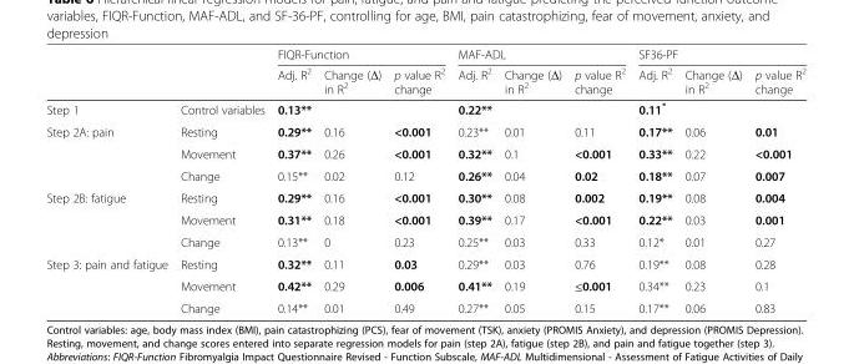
<table><thead><tr><td rowspan="2"></td><td rowspan="2"></td><td colspan="3">FIQR-Function</td><td colspan="3">MAF-ADL</td><td colspan="3">SF36-PF</td></tr><tr><td>Adj. R<sup>2</sup></td><td>Change (Δ) in R<sup>2</sup></td><td>p value R<sup>2</sup> change</td><td>Adj. R<sup>2</sup></td><td>Change (Δ) in R<sup>2</sup></td><td>p value R<sup>2</sup> change</td><td>Adj. R<sup>2</sup></td><td>Change (Δ) in R<sup>2</sup></td><td>p value R<sup>2</sup> change</td></tr></thead><tbody><tr><td>Step 1</td><td>Control variables</td><td>0.13**</td><td></td><td></td><td>0.22**</td><td></td><td></td><td>0.11*</td><td></td><td></td></tr><tr><td rowspan="3">Step 2A: pain</td><td>Resting</td><td>0.29**</td><td>0.16</td><td>&lt;0.001</td><td>0.23**</td><td>0.01</td><td>0.11</td><td>0.17**</td><td>0.06</td><td>0.01</td></tr><tr><td>Movement</td><td>0.37**</td><td>0.26</td><td>&lt;0.001</td><td>0.32**</td><td>0.1</td><td>&lt;0.001</td><td>0.33**</td><td>0.22</td><td>&lt;0.001</td></tr><tr><td>Change</td><td>0.15**</td><td>0.02</td><td>0.12</td><td>0.26**</td><td>0.04</td><td>0.02</td><td>0.18**</td><td>0.07</td><td>0.007</td></tr><tr><td rowspan="3">Step 2B: fatigue</td><td>Resting</td><td>0.29**</td><td>0.16</td><td>&lt;0.001</td><td>0.30**</td><td>0.08</td><td>0.002</td><td>0.19**</td><td>0.08</td><td>0.004</td></tr><tr><td>Movement</td><td>0.31**</td><td>0.18</td><td>&lt;0.001</td><td>0.39**</td><td>0.17</td><td>&lt;0.001</td><td>0.22**</td><td>0.03</td><td>0.001</td></tr><tr><td>Change</td><td>0.13**</td><td>0</td><td>0.23</td><td>0.25**</td><td>0.03</td><td>0.33</td><td>0.12*</td><td>0.01</td><td>0.27</td></tr><tr><td rowspan="3">Step 3: pain and fatigue</td><td>Resting</td><td>0.32**</td><td>0.11</td><td>0.03</td><td>0.29**</td><td>0.03</td><td>0.76</td><td>0.19**</td><td>0.08</td><td>0.28</td></tr><tr><td>Movement</td><td>0.42**</td><td>0.29</td><td>0.006</td><td>0.41**</td><td>0.19</td><td>≤0.001</td><td>0.34**</td><td>0.23</td><td>0.1</td></tr><tr><td>Change</td><td>0.14**</td><td>0.01</td><td>0.49</td><td>0.27**</td><td>0.05</td><td>0.15</td><td>0.17**</td><td>0.06</td><td>0.83</td></tr></tbody></table>